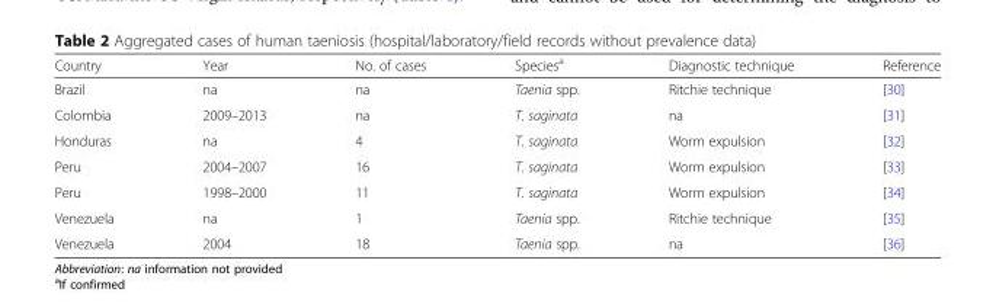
<table><thead><tr><td>Country</td><td>Year</td><td>No. of cases</td><td>Species<sup>a</sup></td><td>Diagnostic technique</td><td>Reference</td></tr></thead><tbody><tr><td>Brazil</td><td>na</td><td>na</td><td>Taenia spp.</td><td>Ritchie technique</td><td>[30]</td></tr><tr><td>Colombia</td><td>2009–2013</td><td>na</td><td>T. saginata</td><td>na</td><td>[31]</td></tr><tr><td>Honduras</td><td>na</td><td>4</td><td>T. saginata</td><td>Worm expulsion</td><td>[32]</td></tr><tr><td>Peru</td><td>2004–2007</td><td>16</td><td>T. saginata</td><td>Worm expulsion</td><td>[33]</td></tr><tr><td>Peru</td><td>1998–2000</td><td>11</td><td>T. saginata</td><td>Worm expulsion</td><td>[34]</td></tr><tr><td>Venezuela</td><td>na</td><td>1</td><td>Taenia spp.</td><td>Ritchie technique</td><td>[35]</td></tr><tr><td>Venezuela</td><td>2004</td><td>18</td><td>Taenia spp.</td><td>na</td><td>[36]</td></tr></tbody></table>